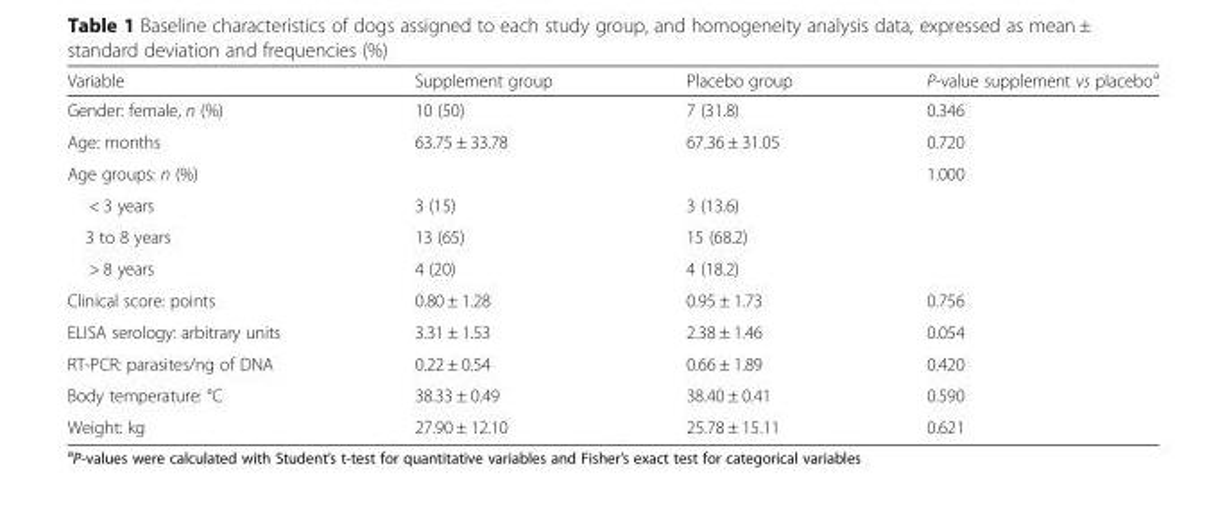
<table><thead><tr><td>Variable</td><td>Supplement group</td><td>Placebo group</td><td>P-value supplement vs placebo<sup>a</sup></td></tr></thead><tbody><tr><td>Gender: female, n (%)</td><td>10 (50)</td><td>7 (31.8)</td><td>0.346</td></tr><tr><td>Age: months</td><td>63.75 ± 33.78</td><td>67.36 ± 31.05</td><td>0.720</td></tr><tr><td>Age groups: n (%)</td><td></td><td></td><td>1.000</td></tr><tr><td>&lt; 3 years</td><td>3 (15)</td><td>3 (13.6)</td><td></td></tr><tr><td>3 to 8 years</td><td>13 (65)</td><td>15 (68.2)</td><td></td></tr><tr><td>&gt; 8 years</td><td>4 (20)</td><td>4 (18.2)</td><td></td></tr><tr><td>Clinical score: points</td><td>0.80 ± 1.28</td><td>0.95 ± 1.73</td><td>0.756</td></tr><tr><td>ELISA serology: arbitrary units</td><td>3.31 ± 1.53</td><td>2.38 ± 1.46</td><td>0.054</td></tr><tr><td>RT-PCR: parasites/ng of DNA</td><td>0.22 ± 0.54</td><td>0.66 ± 1.89</td><td>0.420</td></tr><tr><td>Body temperature: °C</td><td>38.33 ± 0.49</td><td>38.40 ± 0.41</td><td>0.590</td></tr><tr><td>Weight: kg</td><td>27.90 ± 12.10</td><td>25.78 ± 15.11</td><td>0.621</td></tr></tbody></table>